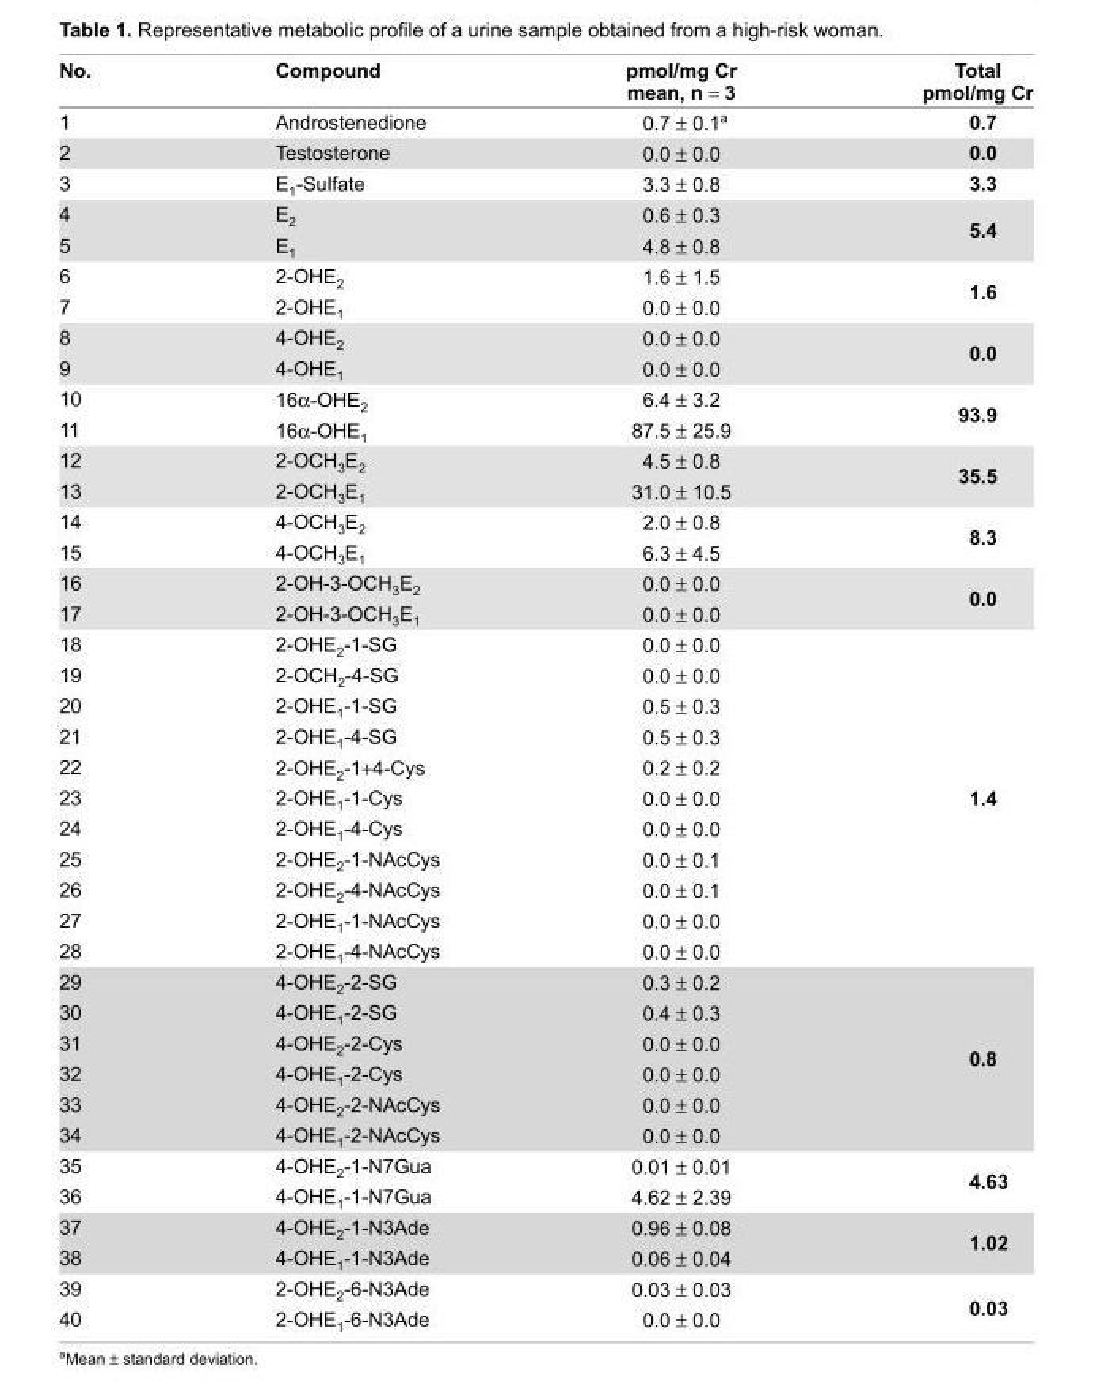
<table><thead><tr><td>No.</td><td>Compound</td><td>pmol/mg Cr mean, n = 3</td><td>Total pmol/mg Cr</td></tr></thead><tbody><tr><td>1</td><td>Androstenedione</td><td>0.7 ± 0.1<sup>a</sup></td><td>0.7</td></tr><tr><td>2</td><td>Testosterone</td><td>0.0 ± 0.0</td><td>0.0</td></tr><tr><td>3</td><td>E<sub>1</sub>-Sulfate</td><td>3.3 ± 0.8</td><td>3.3</td></tr><tr><td>4</td><td>E<sub>2</sub></td><td>0.6 ± 0.3</td><td rowspan="2">5.4</td></tr><tr><td>5</td><td>E<sub>1</sub></td><td>4.8 ± 0.8</td></tr><tr><td>6</td><td>2-OHE<sub>2</sub></td><td>1.6 ± 1.5</td><td rowspan="2">1.6</td></tr><tr><td>7</td><td>2-OHE<sub>1</sub></td><td>0.0 ± 0.0</td></tr><tr><td>8</td><td>4-OHE<sub>2</sub></td><td>0.0 ± 0.0</td><td rowspan="2">0.0</td></tr><tr><td>9</td><td>4-OHE<sub>1</sub></td><td>0.0 ± 0.0</td></tr><tr><td>10</td><td>16α-OHE<sub>2</sub></td><td>6.4 ± 3.2</td><td rowspan="2">93.9</td></tr><tr><td>11</td><td>16α-OHE<sub>1</sub></td><td>87.5 ± 25.9</td></tr><tr><td>12</td><td>2-OCH<sub>3</sub>E<sub>2</sub></td><td>4.5 ± 0.8</td><td rowspan="2">35.5</td></tr><tr><td>13</td><td>2-OCH<sub>3</sub>E<sub>1</sub></td><td>31.0 ± 10.5</td></tr><tr><td>14</td><td>4-OCH<sub>3</sub>E<sub>2</sub></td><td>2.0 ± 0.8</td><td rowspan="2">8.3</td></tr><tr><td>15</td><td>4-OCH<sub>3</sub>E<sub>1</sub></td><td>6.3 ± 4.5</td></tr><tr><td>16</td><td>2-OH-3-OCH<sub>3</sub>E<sub>2</sub></td><td>0.0 ± 0.0</td><td rowspan="2">0.0</td></tr><tr><td>17</td><td>2-OH-3-OCH<sub>3</sub>E<sub>1</sub></td><td>0.0 ± 0.0</td></tr><tr><td>18</td><td>2-OHE<sub>2</sub>-1-SG</td><td>0.0 ± 0.0</td><td rowspan="11">1.4</td></tr><tr><td>19</td><td>2-OCH<sub>2</sub>-4-SG</td><td>0.0 ± 0.0</td></tr><tr><td>20</td><td>2-OHE<sub>1</sub>-1-SG</td><td>0.5 ± 0.3</td></tr><tr><td>21</td><td>2-OHE<sub>1</sub>-4-SG</td><td>0.5 ± 0.3</td></tr><tr><td>22</td><td>2-OHE<sub>2</sub>-1+4-Cys</td><td>0.2 ± 0.2</td></tr><tr><td>23</td><td>2-OHE<sub>1</sub>-1-Cys</td><td>0.0 ± 0.0</td></tr><tr><td>24</td><td>2-OHE<sub>1</sub>-4-Cys</td><td>0.0 ± 0.0</td></tr><tr><td>25</td><td>2-OHE<sub>2</sub>-1-NAcCys</td><td>0.0 ± 0.1</td></tr><tr><td>26</td><td>2-OHE<sub>2</sub>-4-NAcCys</td><td>0.0 ± 0.1</td></tr><tr><td>27</td><td>2-OHE<sub>1</sub>-1-NAcCys</td><td>0.0 ± 0.0</td></tr><tr><td>28</td><td>2-OHE<sub>1</sub>-4-NAcCys</td><td>0.0 ± 0.0</td></tr><tr><td>29</td><td>4-OHE<sub>2</sub>-2-SG</td><td>0.3 ± 0.2</td><td rowspan="6">0.8</td></tr><tr><td>30</td><td>4-OHE<sub>1</sub>-2-SG</td><td>0.4 ± 0.3</td></tr><tr><td>31</td><td>4-OHE<sub>2</sub>-2-Cys</td><td>0.0 ± 0.0</td></tr><tr><td>32</td><td>4-OHE<sub>1</sub>-2-Cys</td><td>0.0 ± 0.0</td></tr><tr><td>33</td><td>4-OHE<sub>2</sub>-2-NAcCys</td><td>0.0 ± 0.0</td></tr><tr><td>34</td><td>4-OHE<sub>1</sub>-2-NAcCys</td><td>0.0 ± 0.0</td></tr><tr><td>35</td><td>4-OHE<sub>2</sub>-1-N7Gua</td><td>0.01 ± 0.01</td><td rowspan="2">4.63</td></tr><tr><td>36</td><td>4-OHE<sub>1</sub>-1-N7Gua</td><td>4.62 ± 2.39</td></tr><tr><td>37</td><td>4-OHE<sub>2</sub>-1-N3Ade</td><td>0.96 ± 0.08</td><td rowspan="2">1.02</td></tr><tr><td>38</td><td>4-OHE<sub>1</sub>-1-N3Ade</td><td>0.06 ± 0.04</td></tr><tr><td>39</td><td>2-OHE<sub>2</sub>-6-N3Ade</td><td>0.03 ± 0.03</td><td rowspan="2">0.03</td></tr><tr><td>40</td><td>2-OHE<sub>1</sub>-6-N3Ade</td><td>0.0 ± 0.0</td></tr></tbody></table>